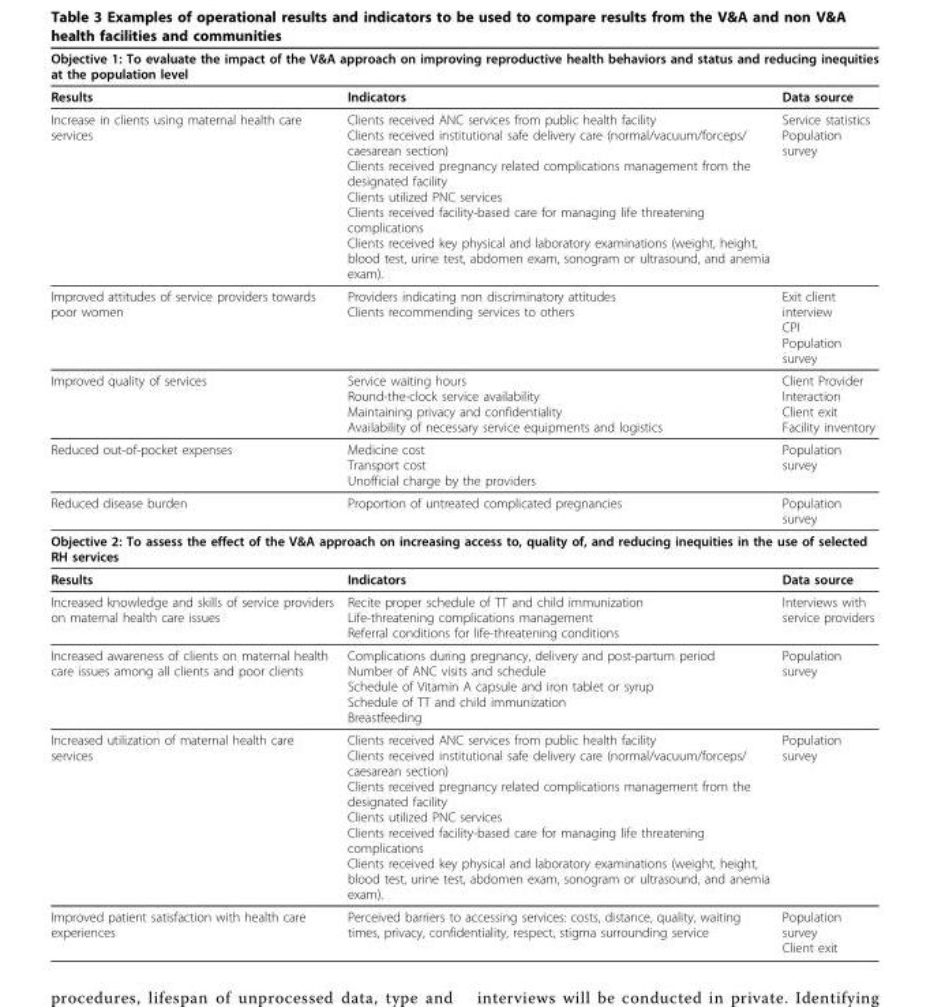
<table><thead><tr><td colspan="3">Objective 1: To evaluate the impact of the V&amp;A approach on improving reproductive health behaviors and status and reducing inequities at the population level</td></tr><tr><td>Results</td><td>Indicators</td><td>Data source</td></tr></thead><tbody><tr><td>Increase in clients using maternal health care services</td><td>Clients received ANC services from public health facility Clients received institutional safe delivery care (normal/vacuum/forceps/ caesarean section) Clients received pregnancy related complications management from the designated facility Clients utilized PNC services Clients received facility-based care for managing life threatening complications Clients received key physical and laboratory examinations (weight, height, blood test, urine test, abdomen exam, sonogram or ultrasound, and anemia exam).</td><td>Service statistics Population survey</td></tr><tr><td>Improved attitudes of service providers towards poor women</td><td>Providers indicating non discriminatory attitudes Clients recommending services to others</td><td>Exit client interview CPI Population survey</td></tr><tr><td>Improved quality of services</td><td>Service waiting hours Round-the-clock service availability Maintaining privacy and confidentiality Availability of necessary service equipments and logistics</td><td>Client Provider Interaction Client exit Facility inventory</td></tr><tr><td>Reduced out-of-pocket expenses</td><td>Medicine cost Transport cost Unofficial charge by the providers</td><td>Population survey</td></tr><tr><td>Reduced disease burden</td><td>Proportion of untreated complicated pregnancies</td><td>Population survey</td></tr><tr><td colspan="3">Objective 2: To assess the effect of the V&amp;A approach on increasing access to, quality of, and reducing inequities in the use of selected RH services</td></tr><tr><td>Results</td><td>Indicators</td><td>Data source</td></tr><tr><td>Increased knowledge and skills of service providers on maternal health care issues</td><td>Recite proper schedule of TT and child immunization Life-threatening complications management Referral conditions for life-threatening conditions</td><td>Interviews with service providers</td></tr><tr><td>Increased awareness of clients on maternal health care issues among all clients and poor clients</td><td>Complications during pregnancy, delivery and post-partum period Number of ANC visits and schedule Schedule of Vitamin A capsule and iron tablet or syrup Schedule of TT and child immunization Breastfeeding</td><td>Population survey</td></tr><tr><td>Increased utilization of maternal health care services</td><td>Clients received ANC services from public health facility Clients received institutional safe delivery care (normal/vacuum/forceps/ caesarean section) Clients received pregnancy related complications management from the designated facility Clients utilized PNC services Clients received facility-based care for managing life threatening complications Clients received key physical and laboratory examinations (weight, height, blood test, urine test, abdomen exam, sonogram or ultrasound, and anemia exam).</td><td>Population survey</td></tr><tr><td>Improved patient satisfaction with health care experiences</td><td>Perceived barriers to accessing services: costs, distance, quality, waiting times, privacy, confidentiality, respect, stigma surrounding service</td><td>Population survey Client exit</td></tr></tbody></table>